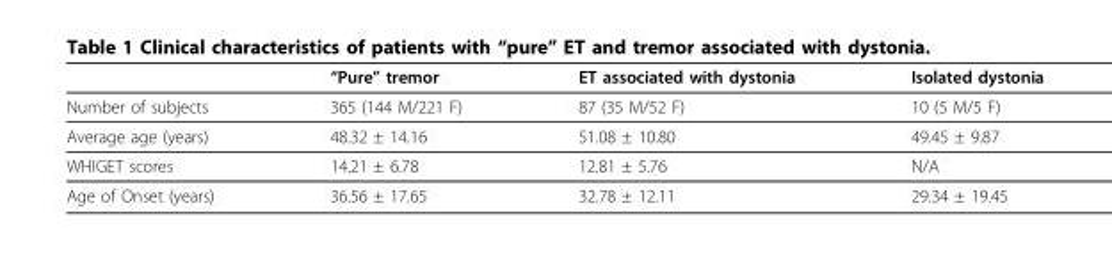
<table><thead><tr><td></td><td>“Pure” tremor</td><td>ET associated with dystonia</td><td>Isolated dystonia</td></tr></thead><tbody><tr><td>Number of subjects</td><td>365 (144 M/221 F)</td><td>87 (35 M/52 F)</td><td>10 (5 M/5 F)</td></tr><tr><td>Average age (years)</td><td>48.32 ± 14.16</td><td>51.08 ± 10.80</td><td>49.45 ± 9.87</td></tr><tr><td>WHIGET scores</td><td>14.21 ± 6.78</td><td>12.81 ± 5.76</td><td>N/A</td></tr><tr><td>Age of Onset (years)</td><td>36.56 ± 17.65</td><td>32.78 ± 12.11</td><td>29.34 ± 19.45</td></tr></tbody></table>